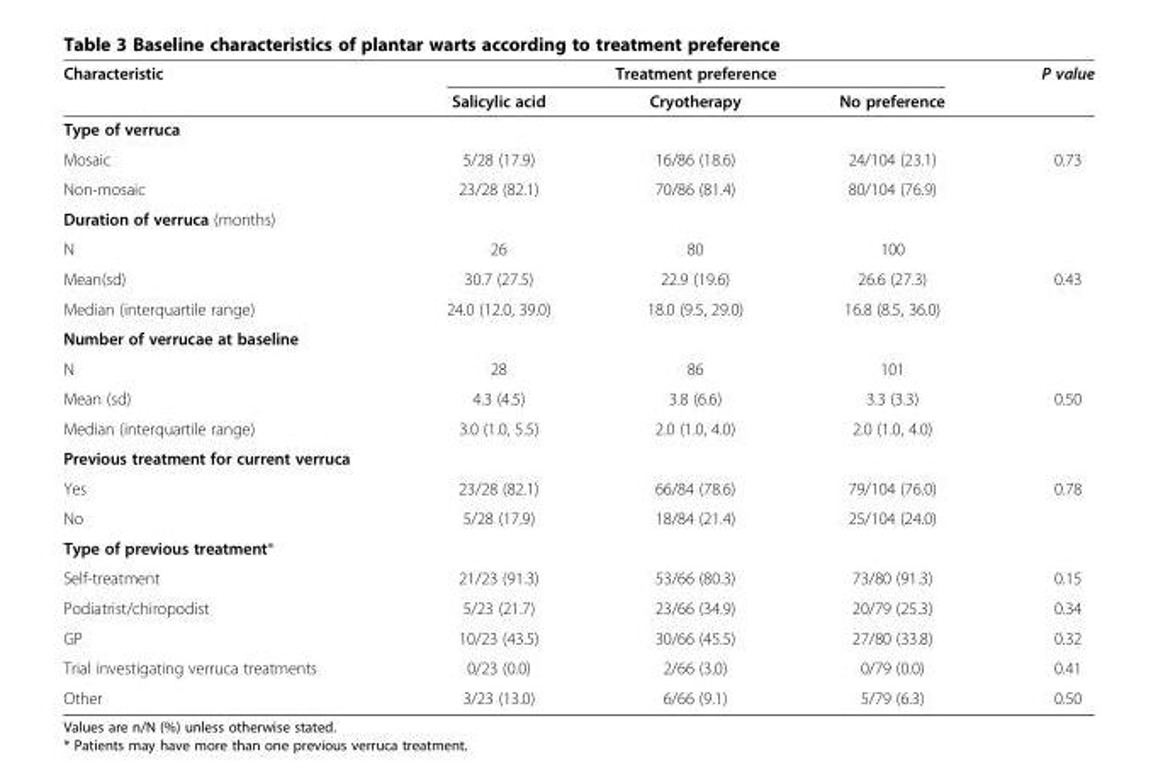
<table><thead><tr><td rowspan="2">Characteristic</td><td colspan="3">Treatment preference</td><td rowspan="2">P value</td></tr><tr><td>Salicylic acid</td><td>Cryotherapy</td><td>No preference</td></tr></thead><tbody><tr><td colspan="5">Type of verruca</td></tr><tr><td>Mosaic</td><td>5/28 (17.9)</td><td>16/86 (18.6)</td><td>24/104 (23.1)</td><td>0.73</td></tr><tr><td>Non-mosaic</td><td>23/28 (82.1)</td><td>70/86 (81.4)</td><td>80/104 (76.9)</td><td></td></tr><tr><td colspan="5">Duration of verruca (months)</td></tr><tr><td>N</td><td>26</td><td>80</td><td>100</td><td></td></tr><tr><td>Mean(sd)</td><td>30.7 (27.5)</td><td>22.9 (19.6)</td><td>26.6 (27.3)</td><td>0.43</td></tr><tr><td>Median (interquartile range)</td><td>24.0 (12.0, 39.0)</td><td>18.0 (9.5, 29.0)</td><td>16.8 (8.5, 36.0)</td><td></td></tr><tr><td colspan="5">Number of verrucae at baseline</td></tr><tr><td>N</td><td>28</td><td>86</td><td>101</td><td></td></tr><tr><td>Mean (sd)</td><td>4.3 (4.5)</td><td>3.8 (6.6)</td><td>3.3 (3.3)</td><td>0.50</td></tr><tr><td>Median (interquartile range)</td><td>3.0 (1.0, 5.5)</td><td>2.0 (1.0, 4.0)</td><td>2.0 (1.0, 4.0)</td><td></td></tr><tr><td colspan="5">Previous treatment for current verruca</td></tr><tr><td>Yes</td><td>23/28 (82.1)</td><td>66/84 (78.6)</td><td>79/104 (76.0)</td><td>0.78</td></tr><tr><td>No</td><td>5/28 (17.9)</td><td>18/84 (21.4)</td><td>25/104 (24.0)</td><td></td></tr><tr><td colspan="5">Type of previous treatment*</td></tr><tr><td>Self-treatment</td><td>21/23 (91.3)</td><td>53/66 (80.3)</td><td>73/80 (91.3)</td><td>0.15</td></tr><tr><td>Podiatrist/chiropodist</td><td>5/23 (21.7)</td><td>23/66 (34.9)</td><td>20/79 (25.3)</td><td>0.34</td></tr><tr><td>GP</td><td>10/23 (43.5)</td><td>30/66 (45.5)</td><td>27/80 (33.8)</td><td>0.32</td></tr><tr><td>Trial investigating verruca treatments</td><td>0/23 (0.0)</td><td>2/66 (3.0)</td><td>0/79 (0.0)</td><td>0.41</td></tr><tr><td>Other</td><td>3/23 (13.0)</td><td>6/66 (9.1)</td><td>5/79 (6.3)</td><td>0.50</td></tr></tbody></table>